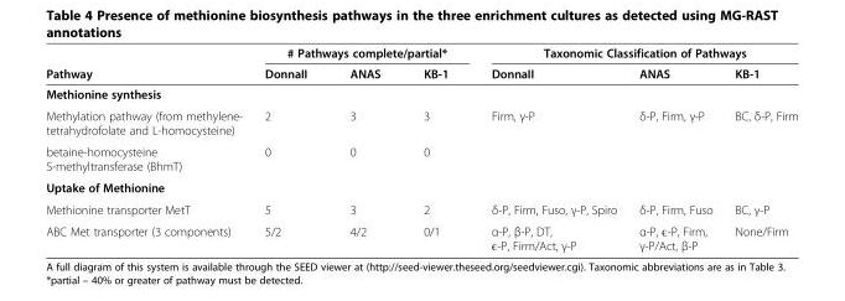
<table><thead><tr><td rowspan="2">Pathway</td><td colspan="3"># Pathways complete/partial*</td><td colspan="3">Taxonomic Classification of Pathways</td></tr><tr><td>DonnaII</td><td>ANAS</td><td>KB-1</td><td>DonnaII</td><td>ANAS</td><td>KB-1</td></tr></thead><tbody><tr><td colspan="7">Methionine synthesis</td></tr><tr><td>Methylation pathway (from methylene- tetrahydrofolate and L-homocysteine)</td><td>2</td><td>3</td><td>3</td><td>Firm, γ-P</td><td>δ-P, Firm, γ-P</td><td>BC, δ-P, Firm</td></tr><tr><td>betaine-homocysteine S-methyltransferase (BhmT)</td><td>0</td><td>0</td><td>0</td><td></td><td></td><td></td></tr><tr><td colspan="7">Uptake of Methionine</td></tr><tr><td>Methionine transporter MetT</td><td>5</td><td>3</td><td>2</td><td>δ-P, Firm, Fuso, γ-P, Spiro</td><td>δ-P, Firm, Fuso</td><td>BC, γ-P</td></tr><tr><td>ABC Met transporter (3 components)</td><td>5/2</td><td>4/2</td><td>0/1</td><td>α-P, β-P, DT, ϵ-P, Firm/Act, γ-P</td><td>α-P, ϵ-P, Firm, γ-P/Act, β-P</td><td>None/Firm</td></tr></tbody></table>